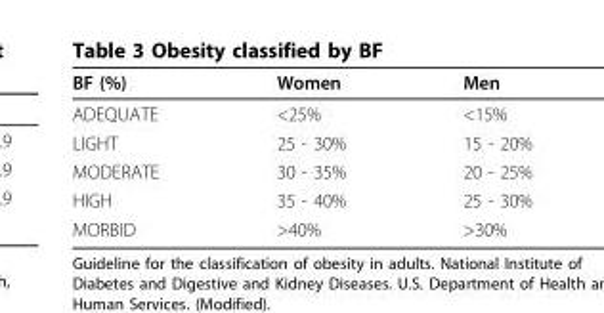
<table><thead><tr><td>BF (%)</td><td>Women</td><td>Men</td></tr></thead><tbody><tr><td>ADEQUATE</td><td>&lt;25%</td><td>&lt;15%</td></tr><tr><td>LIGHT</td><td>25 - 30%</td><td>15 - 20%</td></tr><tr><td>MODERATE</td><td>30 - 35%</td><td>20 - 25%</td></tr><tr><td>HIGH</td><td>35 - 40%</td><td>25 - 30%</td></tr><tr><td>MORBID</td><td>&gt;40%</td><td>&gt;30%</td></tr></tbody></table>